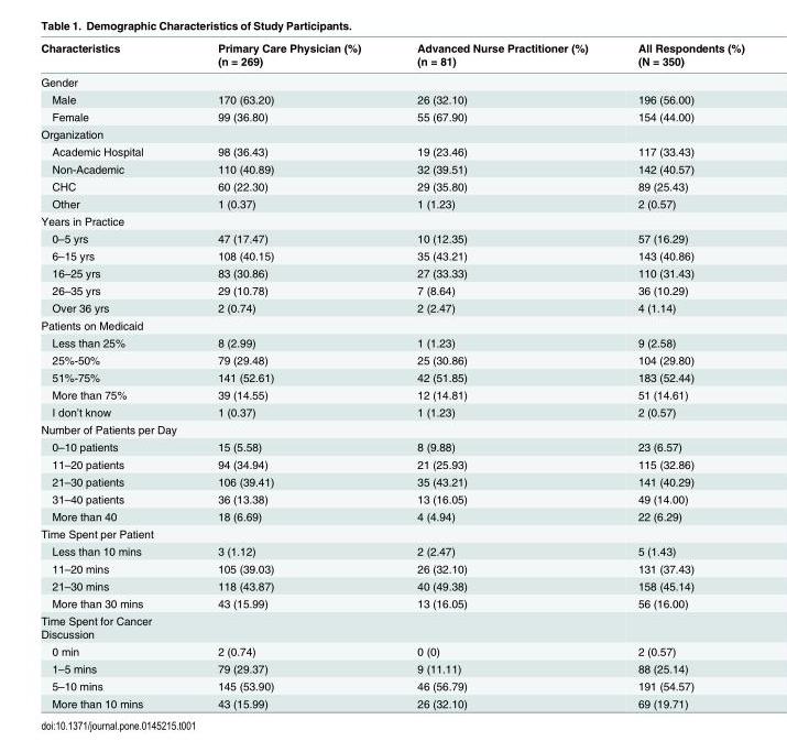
<table><thead><tr><td>Characteristics</td><td>Primary Care Physician (%) (n = 269)</td><td>Advanced Nurse Practitioner (%) (n = 81)</td><td>All Respondents (%) (N = 350)</td></tr></thead><tbody><tr><td colspan="4">Gender</td></tr><tr><td>Male</td><td>170 (63.20)</td><td>26 (32.10)</td><td>196 (56.00)</td></tr><tr><td>Female</td><td>99 (36.80)</td><td>55 (67.90)</td><td>154 (44.00)</td></tr><tr><td colspan="4">Organization</td></tr><tr><td>Academic Hospital</td><td>98 (36.43)</td><td>19 (23.46)</td><td>117 (33.43)</td></tr><tr><td>Non-Academic</td><td>110 (40.89)</td><td>32 (39.51)</td><td>142 (40.57)</td></tr><tr><td>CHC</td><td>60 (22.30)</td><td>29 (35.80)</td><td>89 (25.43)</td></tr><tr><td>Other</td><td>1 (0.37)</td><td>1 (1.23)</td><td>2 (0.57)</td></tr><tr><td colspan="4">Years in Practice</td></tr><tr><td>0–5 yrs</td><td>47 (17.47)</td><td>10 (12.35)</td><td>57 (16.29)</td></tr><tr><td>6–15 yrs</td><td>108 (40.15)</td><td>35 (43.21)</td><td>143 (40.86)</td></tr><tr><td>16–25 yrs</td><td>83 (30.86)</td><td>27 (33.33)</td><td>110 (31.43)</td></tr><tr><td>26–35 yrs</td><td>29 (10.78)</td><td>7 (8.64)</td><td>36 (10.29)</td></tr><tr><td>Over 36 yrs</td><td>2 (0.74)</td><td>2 (2.47)</td><td>4 (1.14)</td></tr><tr><td colspan="4">Patients on Medicaid</td></tr><tr><td>Less than 25%</td><td>8 (2.99)</td><td>1 (1.23)</td><td>9 (2.58)</td></tr><tr><td>25%-50%</td><td>79 (29.48)</td><td>25 (30.86)</td><td>104 (29.80)</td></tr><tr><td>51%-75%</td><td>141 (52.61)</td><td>42 (51.85)</td><td>183 (52.44)</td></tr><tr><td>More than 75%</td><td>39 (14.55)</td><td>12 (14.81)</td><td>51 (14.61)</td></tr><tr><td>I don’t know</td><td>1 (0.37)</td><td>1 (1.23)</td><td>2 (0.57)</td></tr><tr><td colspan="4">Number of Patients per Day</td></tr><tr><td>0–10 patients</td><td>15 (5.58)</td><td>8 (9.88)</td><td>23 (6.57)</td></tr><tr><td>11–20 patients</td><td>94 (34.94)</td><td>21 (25.93)</td><td>115 (32.86)</td></tr><tr><td>21–30 patients</td><td>106 (39.41)</td><td>35 (43.21)</td><td>141 (40.29)</td></tr><tr><td>31–40 patients</td><td>36 (13.38)</td><td>13 (16.05)</td><td>49 (14.00)</td></tr><tr><td>More than 40</td><td>18 (6.69)</td><td>4 (4.94)</td><td>22 (6.29)</td></tr><tr><td colspan="4">Time Spent per Patient</td></tr><tr><td>Less than 10 mins</td><td>3 (1.12)</td><td>2 (2.47)</td><td>5 (1.43)</td></tr><tr><td>11–20 mins</td><td>105 (39.03)</td><td>26 (32.10)</td><td>131 (37.43)</td></tr><tr><td>21–30 mins</td><td>118 (43.87)</td><td>40 (49.38)</td><td>158 (45.14)</td></tr><tr><td>More than 30 mins</td><td>43 (15.99)</td><td>13 (16.05)</td><td>56 (16.00)</td></tr><tr><td colspan="4">Time Spent for Cancer Discussion</td></tr><tr><td>0 min</td><td>2 (0.74)</td><td>0 (0)</td><td>2 (0.57)</td></tr><tr><td>1–5 mins</td><td>79 (29.37)</td><td>9 (11.11)</td><td>88 (25.14)</td></tr><tr><td>5–10 mins</td><td>145 (53.90)</td><td>46 (56.79)</td><td>191 (54.57)</td></tr><tr><td>More than 10 mins</td><td>43 (15.99)</td><td>26 (32.10)</td><td>69 (19.71)</td></tr></tbody></table>